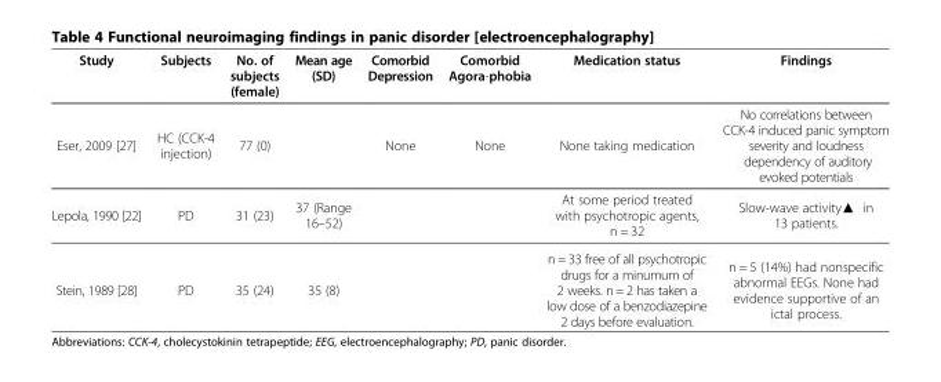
<table><thead><tr><td>Study</td><td>Subjects</td><td>No. of subjects (female)</td><td>Mean age (SD)</td><td>Comorbid Depression</td><td>Comorbid Agora-phobia</td><td>Medication status</td><td>Findings</td></tr></thead><tbody><tr><td>Eser, 2009 [27]</td><td>HC (CCK-4 injection)</td><td>77 (0)</td><td></td><td>None</td><td>None</td><td>None taking medication</td><td>No correlations between CCK-4 induced panic symptom severity and loudness dependency of auditory evoked potentials</td></tr><tr><td>Lepola, 1990 [22]</td><td>PD</td><td>31 (23)</td><td>37 (Range 16–52)</td><td></td><td></td><td>At some period treated with psychotropic agents, n = 32</td><td>Slow-wave activity▲ in 13 patients.</td></tr><tr><td>Stein, 1989 [28]</td><td>PD</td><td>35 (24)</td><td>35 (8)</td><td></td><td></td><td>n = 33 free of all psychotropic drugs for a minumum of 2 weeks. n = 2 has taken a low dose of a benzodiazepine 2 days before evaluation.</td><td>n = 5 (14%) had nonspecific abnormal EEGs. None had evidence supportive of an ictal process.</td></tr></tbody></table>